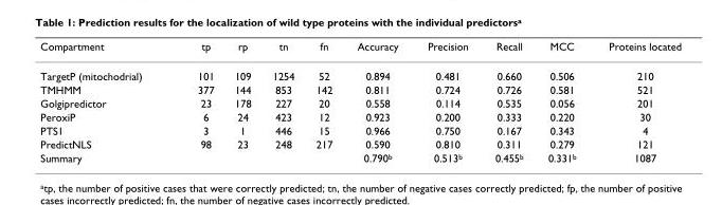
<table><thead><tr><td>Compartment</td><td>tp</td><td>rp</td><td>tn</td><td>fn</td><td>Accuracy</td><td>Precision</td><td>Recall</td><td>MCC</td><td>Proteins located</td></tr></thead><tbody><tr><td>TargetP (mitochodrial)</td><td>101</td><td>109</td><td>1254</td><td>52</td><td>0.894</td><td>0.481</td><td>0.660</td><td>0.506</td><td>210</td></tr><tr><td>TMHMM</td><td>377</td><td>144</td><td>853</td><td>142</td><td>0.811</td><td>0.724</td><td>0.726</td><td>0.581</td><td>521</td></tr><tr><td>Golgipredictor</td><td>23</td><td>178</td><td>227</td><td>20</td><td>0.558</td><td>0.114</td><td>0.535</td><td>0.056</td><td>201</td></tr><tr><td>PeroxiP</td><td>6</td><td>24</td><td>423</td><td>12</td><td>0.923</td><td>0.200</td><td>0.333</td><td>0.220</td><td>30</td></tr><tr><td>PTS1</td><td>3</td><td>1</td><td>446</td><td>15</td><td>0.966</td><td>0.750</td><td>0.167</td><td>0.343</td><td>4</td></tr><tr><td>PredictNLS</td><td>98</td><td>23</td><td>248</td><td>217</td><td>0.590</td><td>0.810</td><td>0.311</td><td>0.279</td><td>121</td></tr><tr><td>Summary</td><td></td><td></td><td></td><td></td><td>0.790<sup>b</sup></td><td>0.513<sup>b</sup></td><td>0.455<sup>b</sup></td><td>0.331<sup>b</sup></td><td>1087</td></tr></tbody></table>